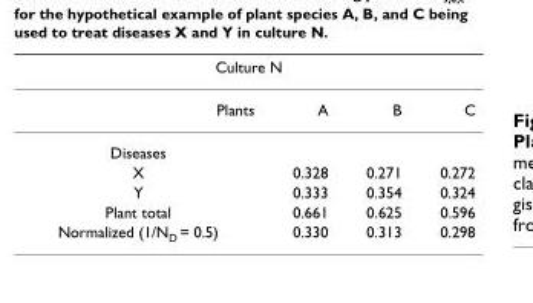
<table><thead><tr><td colspan="4">Culture N</td></tr><tr><td>Plants</td><td>A</td><td>B</td><td>C</td></tr></thead><tbody><tr><td colspan="4">Diseases</td></tr><tr><td>X</td><td>0.328</td><td>0.271</td><td>0.272</td></tr><tr><td>Y</td><td>0.333</td><td>0.354</td><td>0.324</td></tr><tr><td>Plant total</td><td>0.661</td><td>0.625</td><td>0.596</td></tr><tr><td>Normalized (1/N<sub>D</sub> = 0.5)</td><td>0.330</td><td>0.313</td><td>0.298</td></tr></tbody></table>